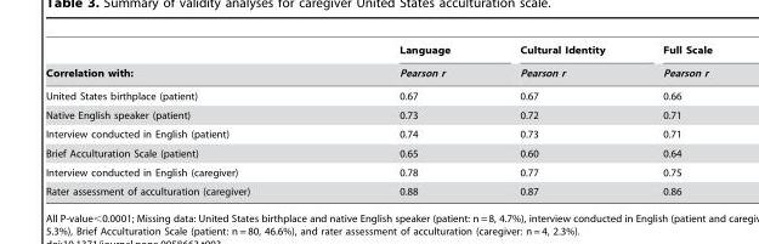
<table><thead><tr><td rowspan="2">Correlation with:</td><td rowspan="2">Language Pearson r</td><td rowspan="2">Cultural Identity Pearson r</td><td rowspan="2">Full Scale Pearson r</td></tr><tr></tr></thead><tbody><tr><td>United States birthplace (patient)</td><td>0.67</td><td>0.67</td><td>0.66</td></tr><tr><td>Native English speaker (patient)</td><td>0.73</td><td>0.72</td><td>0.71</td></tr><tr><td>Interview conducted in English (patient)</td><td>0.74</td><td>0.73</td><td>0.71</td></tr><tr><td>Brief Acculturation Scale (patient)</td><td>0.65</td><td>0.60</td><td>0.64</td></tr><tr><td>Interview conducted in English (caregiver)</td><td>0.78</td><td>0.77</td><td>0.75</td></tr><tr><td>Rater assessment of acculturation (caregiver)</td><td>0.88</td><td>0.87</td><td>0.86</td></tr></tbody></table>